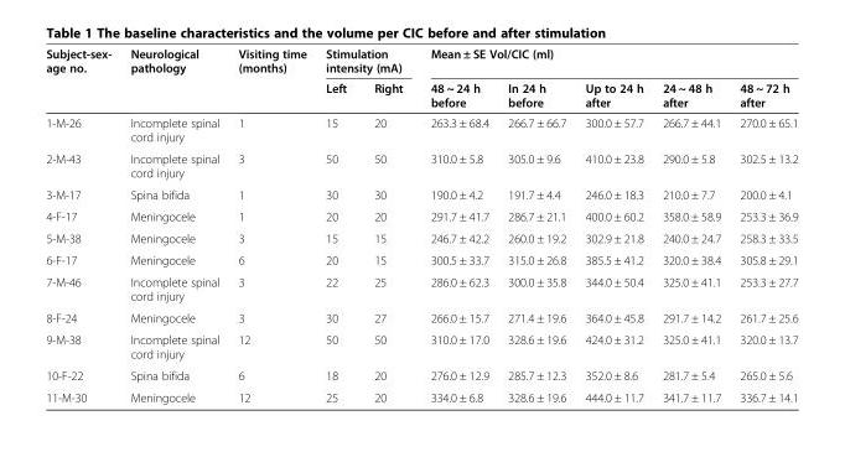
<table><thead><tr><td rowspan="2">Subject-sex- age no.</td><td rowspan="2">Neurological pathology</td><td rowspan="2">Visiting time (months)</td><td colspan="2">Stimulation intensity (mA)</td><td colspan="5">Mean ± SE Vol/CIC (ml)</td></tr><tr><td>Left</td><td>Right</td><td>48 ~ 24 h before</td><td>In 24 h before</td><td>Up to 24 h after</td><td>24 ~ 48 h after</td><td>48 ~ 72 h after</td></tr></thead><tbody><tr><td>1-M-26</td><td>Incomplete spinal cord injury</td><td>1</td><td>15</td><td>20</td><td>263.3 ± 68.4</td><td>266.7 ± 66.7</td><td>300.0 ± 57.7</td><td>266.7 ± 44.1</td><td>270.0 ± 65.1</td></tr><tr><td>2-M-43</td><td>Incomplete spinal cord injury</td><td>3</td><td>50</td><td>50</td><td>310.0 ± 5.8</td><td>305.0 ± 9.6</td><td>410.0 ± 23.8</td><td>290.0 ± 5.8</td><td>302.5 ± 13.2</td></tr><tr><td>3-M-17</td><td>Spina bifida</td><td>1</td><td>30</td><td>30</td><td>190.0 ± 4.2</td><td>191.7 ± 4.4</td><td>246.0 ± 18.3</td><td>210.0 ± 7.7</td><td>200.0 ± 4.1</td></tr><tr><td>4-F-17</td><td>Meningocele</td><td>1</td><td>20</td><td>20</td><td>291.7 ± 41.7</td><td>286.7 ± 21.1</td><td>400.0 ± 60.2</td><td>358.0 ± 58.9</td><td>253.3 ± 36.9</td></tr><tr><td>5-M-38</td><td>Meningocele</td><td>3</td><td>15</td><td>15</td><td>246.7 ± 42.2</td><td>260.0 ± 19.2</td><td>302.9 ± 21.8</td><td>240.0 ± 24.7</td><td>258.3 ± 33.5</td></tr><tr><td>6-F-17</td><td>Meningocele</td><td>6</td><td>20</td><td>15</td><td>300.5 ± 33.7</td><td>315.0 ± 26.8</td><td>385.5 ± 41.2</td><td>320.0 ± 38.4</td><td>305.8 ± 29.1</td></tr><tr><td>7-M-46</td><td>Incomplete spinal cord injury</td><td>3</td><td>22</td><td>25</td><td>286.0 ± 62.3</td><td>300.0 ± 35.8</td><td>344.0 ± 50.4</td><td>325.0 ± 41.1</td><td>253.3 ± 27.7</td></tr><tr><td>8-F-24</td><td>Meningocele</td><td>3</td><td>30</td><td>27</td><td>266.0 ± 15.7</td><td>271.4 ± 19.6</td><td>364.0 ± 45.8</td><td>291.7 ± 14.2</td><td>261.7 ± 25.6</td></tr><tr><td>9-M-38</td><td>Incomplete spinal cord injury</td><td>12</td><td>50</td><td>50</td><td>310.0 ± 17.0</td><td>328.6 ± 19.6</td><td>424.0 ± 31.2</td><td>325.0 ± 41.1</td><td>320.0 ± 13.7</td></tr><tr><td>10-F-22</td><td>Spina bifida</td><td>6</td><td>18</td><td>20</td><td>276.0 ± 12.9</td><td>285.7 ± 12.3</td><td>352.0 ± 8.6</td><td>281.7 ± 5.4</td><td>265.0 ± 5.6</td></tr><tr><td>11-M-30</td><td>Meningocele</td><td>12</td><td>25</td><td>20</td><td>334.0 ± 6.8</td><td>328.6 ± 19.6</td><td>444.0 ± 11.7</td><td>341.7 ± 11.7</td><td>336.7 ± 14.1</td></tr></tbody></table>